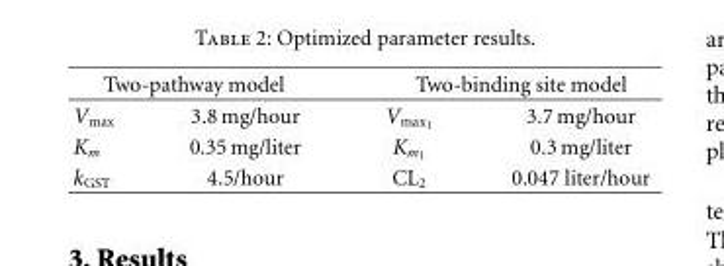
<table><thead><tr><td colspan="2">Two-pathway model</td><td colspan="2">Two-binding site model</td></tr><tr><td>V<sub>max</sub></td><td>3.8 mg/hour</td><td>Vmax1</td><td>3.7 mg/hour</td></tr></thead><tbody><tr><td>K<sub>m</sub></td><td>0.35 mg/liter</td><td>Km1</td><td>0.3 mg/liter</td></tr><tr><td>k<sub>GST</sub></td><td>4.5/hour</td><td>CL<sub>2</sub></td><td>0.047 liter/hour</td></tr></tbody></table>